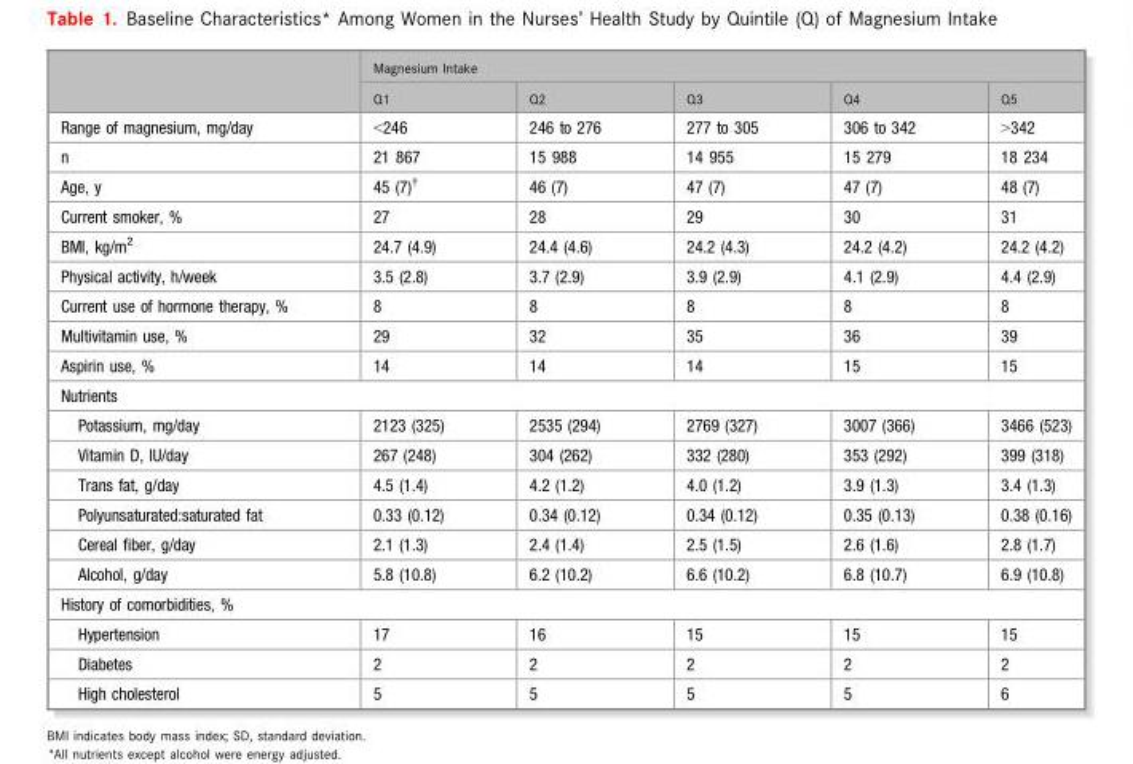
<table><thead><tr><td rowspan="2"></td><td colspan="5">Magnesium Intake</td></tr><tr><td>Q1</td><td>Q2</td><td>Q3</td><td>Q4</td><td>Q5</td></tr></thead><tbody><tr><td>Range of magnesium, mg/day</td><td>&lt;246</td><td>246 to 276</td><td>277 to 305</td><td>306 to 342</td><td>&gt;342</td></tr><tr><td>n</td><td>21 867</td><td>15 988</td><td>14 955</td><td>15 279</td><td>18 234</td></tr><tr><td>Age, y</td><td>45 (7)†</td><td>46 (7)</td><td>47 (7)</td><td>47 (7)</td><td>48 (7)</td></tr><tr><td>Current smoker, %</td><td>27</td><td>28</td><td>29</td><td>30</td><td>31</td></tr><tr><td>BMI, kg/m<sup>2</sup></td><td>24.7 (4.9)</td><td>24.4 (4.6)</td><td>24.2 (4.3)</td><td>24.2 (4.2)</td><td>24.2 (4.2)</td></tr><tr><td>Physical activity, h/week</td><td>3.5 (2.8)</td><td>3.7 (2.9)</td><td>3.9 (2.9)</td><td>4.1 (2.9)</td><td>4.4 (2.9)</td></tr><tr><td>Current use of hormone therapy, %</td><td>8</td><td>8</td><td>8</td><td>8</td><td>8</td></tr><tr><td>Multivitamin use, %</td><td>29</td><td>32</td><td>35</td><td>36</td><td>39</td></tr><tr><td>Aspirin use, %</td><td>14</td><td>14</td><td>14</td><td>15</td><td>15</td></tr><tr><td colspan="6">Nutrients</td></tr><tr><td>Potassium, mg/day</td><td>2123 (325)</td><td>2535 (294)</td><td>2769 (327)</td><td>3007 (366)</td><td>3466 (523)</td></tr><tr><td>Vitamin D, IU/day</td><td>267 (248)</td><td>304 (262)</td><td>332 (280)</td><td>353 (292)</td><td>399 (318)</td></tr><tr><td>Trans fat, g/day</td><td>4.5 (1.4)</td><td>4.2 (1.2)</td><td>4.0 (1.2)</td><td>3.9 (1.3)</td><td>3.4 (1.3)</td></tr><tr><td>Polyunsaturated:saturated fat</td><td>0.33 (0.12)</td><td>0.34 (0.12)</td><td>0.34 (0.12)</td><td>0.35 (0.13)</td><td>0.38 (0.16)</td></tr><tr><td>Cereal fiber, g/day</td><td>2.1 (1.3)</td><td>2.4 (1.4)</td><td>2.5 (1.5)</td><td>2.6 (1.6)</td><td>2.8 (1.7)</td></tr><tr><td>Alcohol, g/day</td><td>5.8 (10.8)</td><td>6.2 (10.2)</td><td>6.6 (10.2)</td><td>6.8 (10.7)</td><td>6.9 (10.8)</td></tr><tr><td colspan="6">History of comorbidities, %</td></tr><tr><td>Hypertension</td><td>17</td><td>16</td><td>15</td><td>15</td><td>15</td></tr><tr><td>Diabetes</td><td>2</td><td>2</td><td>2</td><td>2</td><td>2</td></tr><tr><td>High cholesterol</td><td>5</td><td>5</td><td>5</td><td>5</td><td>6</td></tr></tbody></table>